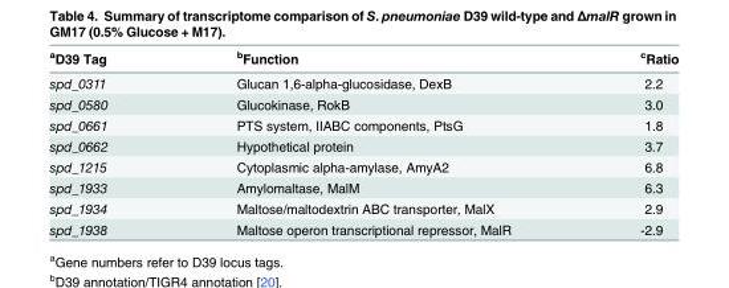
<table><thead><tr><td><sup>a</sup>D39 Tag</td><td><sup>b</sup>Function</td><td><sup>c</sup>Ratio</td></tr></thead><tbody><tr><td>spd_0311</td><td>Glucan 1,6-alpha-glucosidase, DexB</td><td>2.2</td></tr><tr><td>spd_0580</td><td>Glucokinase, RokB</td><td>3.0</td></tr><tr><td>spd_0661</td><td>PTS system, IIABC components, PtsG</td><td>1.8</td></tr><tr><td>spd_0662</td><td>Hypothetical protein</td><td>3.7</td></tr><tr><td>spd_1215</td><td>Cytoplasmic alpha-amylase, AmyA2</td><td>6.8</td></tr><tr><td>spd_1933</td><td>Amylomaltase, MalM</td><td>6.3</td></tr><tr><td>spd_1934</td><td>Maltose/maltodextrin ABC transporter, MalX</td><td>2.9</td></tr><tr><td>spd_1938</td><td>Maltose operon transcriptional repressor, MalR</td><td>-2.9</td></tr></tbody></table>